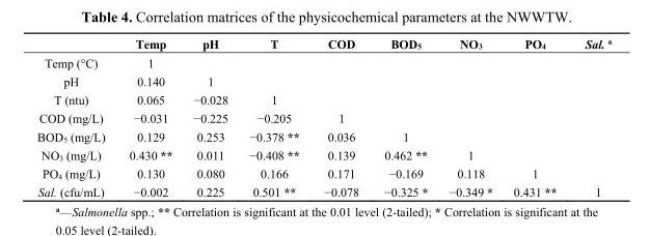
<table><thead><tr><td></td><td>Temp</td><td>pH</td><td>T</td><td>COD</td><td>BOD<sub>5</sub></td><td>NO<sub>3</sub></td><td>PO<sub>4</sub></td><td>Sal. <sup>a</sup></td></tr></thead><tbody><tr><td>Temp (°C)</td><td>1</td><td></td><td></td><td></td><td></td><td></td><td></td><td></td></tr><tr><td>pH</td><td>0.140</td><td>1</td><td></td><td></td><td></td><td></td><td></td><td></td></tr><tr><td>T (ntu)</td><td>0.065</td><td>−0.028</td><td>1</td><td></td><td></td><td></td><td></td><td></td></tr><tr><td>COD (mg/L)</td><td>−0.031</td><td>−0.225</td><td>−0.205</td><td>1</td><td></td><td></td><td></td><td></td></tr><tr><td>BOD<sub>5</sub> (mg/L)</td><td>0.129</td><td>0.253</td><td>−0.378 **</td><td>0.036</td><td>1</td><td></td><td></td><td></td></tr><tr><td>NO<sub>3</sub> (mg/L)</td><td>0.430 **</td><td>0.011</td><td>−0.408 **</td><td>0.139</td><td>0.462 **</td><td>1</td><td></td><td></td></tr><tr><td>PO<sub>4</sub> (mg/L)</td><td>0.130</td><td>0.080</td><td>0.166</td><td>0.171</td><td>−0.169</td><td>0.118</td><td>1</td><td></td></tr><tr><td>Sal. (cfu/mL)</td><td>−0.002</td><td>0.225</td><td>0.501 **</td><td>−0.078</td><td>−0.325 *</td><td>−0.349 *</td><td>0.431 **</td><td>1</td></tr></tbody></table>